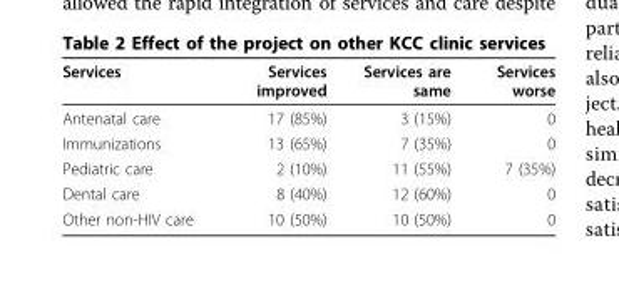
<table><thead><tr><td>Services</td><td>Services improved</td><td>Services are same</td><td>Services worse</td></tr></thead><tbody><tr><td>Antenatal care</td><td>17 (85%)</td><td>3 (15%)</td><td>0</td></tr><tr><td>Immunizations</td><td>13 (65%)</td><td>7 (35%)</td><td>0</td></tr><tr><td>Pediatric care</td><td>2 (10%)</td><td>11 (55%)</td><td>7 (35%)</td></tr><tr><td>Dental care</td><td>8 (40%)</td><td>12 (60%)</td><td>0</td></tr><tr><td>Other non-HIV care</td><td>10 (50%)</td><td>10 (50%)</td><td>0</td></tr></tbody></table>